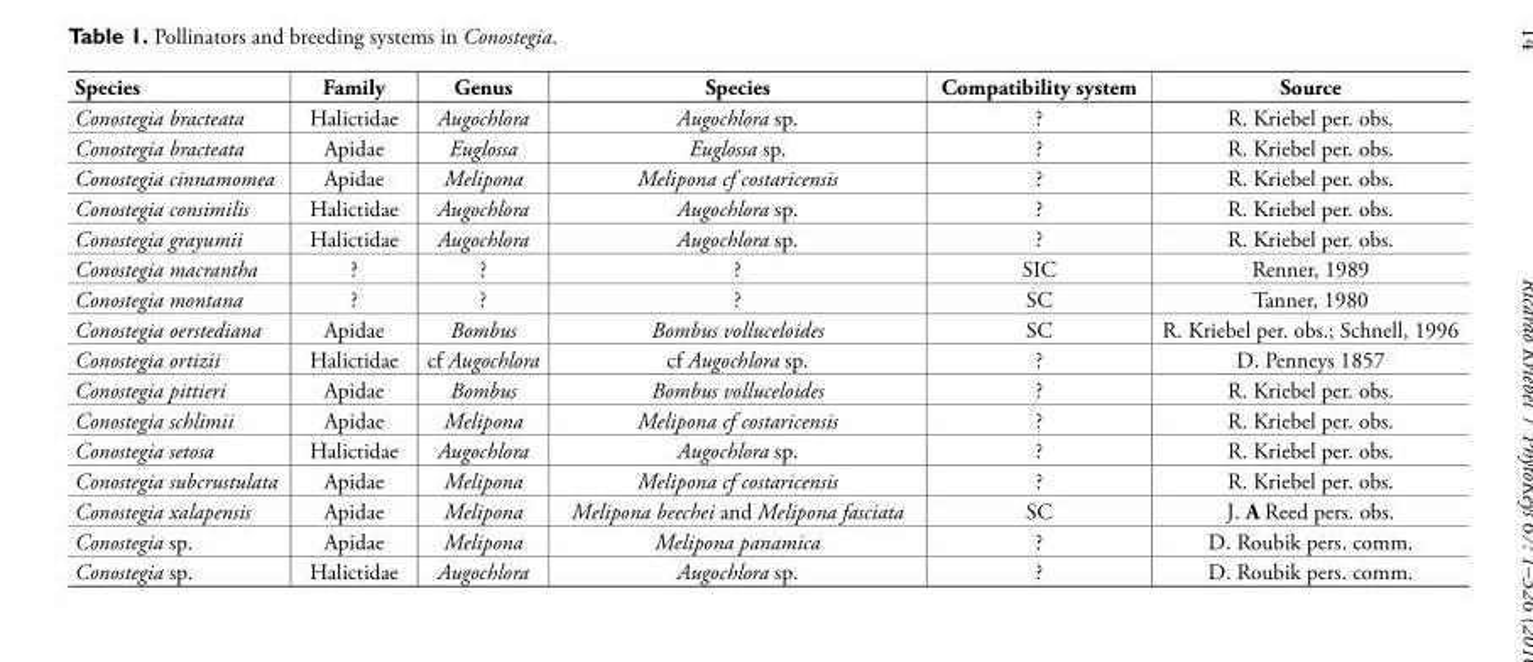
<table><thead><tr><td>Species</td><td>Family</td><td>Genus</td><td>Species</td><td>Compatibility system</td><td>Source</td></tr></thead><tbody><tr><td>Conostegia bracteata</td><td>Halictidae</td><td>Augochlora</td><td>Augochlora sp.</td><td>?</td><td>R. Kriebel per. obs.</td></tr><tr><td>Conostegia bracteata</td><td>Apidae</td><td>Euglossa</td><td>Euglossa sp.</td><td>?</td><td>R. Kriebel per. obs.</td></tr><tr><td>Conostegia cinnamomea</td><td>Apidae</td><td>Melipona</td><td>Melipona cf costaricensis</td><td>?</td><td>R. Kriebel per. obs.</td></tr><tr><td>Conostegia consimilis</td><td>Halictidae</td><td>Augochlora</td><td>Augochlora sp.</td><td>?</td><td>R. Kriebel per. obs.</td></tr><tr><td>Conostegia grayumii</td><td>Halictidae</td><td>Augochlora</td><td>Augochlora sp.</td><td>?</td><td>R. Kriebel per. obs.</td></tr><tr><td>Conostegia macrantha</td><td>?</td><td>?</td><td>?</td><td>SIC</td><td>Renner, 1989</td></tr><tr><td>Conostegia montana</td><td>?</td><td>?</td><td>?</td><td>SC</td><td>Tanner, 1980</td></tr><tr><td>Conostegia oerstediana</td><td>Apidae</td><td>Bombus</td><td>Bombus volluceloides</td><td>SC</td><td>R. Kriebel per. obs.; Schnell, 1996</td></tr><tr><td>Conostegia ortizii</td><td>Halictidae</td><td>cf Augochlora</td><td>cf Augochlora sp.</td><td>?</td><td>D. Penneys 1857</td></tr><tr><td>Conostegia pittieri</td><td>Apidae</td><td>Bombus</td><td>Bombus volluceloides</td><td>?</td><td>R. Kriebel per. obs.</td></tr><tr><td>Conostegia schlimii</td><td>Apidae</td><td>Melipona</td><td>Melipona cf costaricensis</td><td>?</td><td>R. Kriebel per. obs.</td></tr><tr><td>Conostegia setosa</td><td>Halictidae</td><td>Augochlora</td><td>Augochlora sp.</td><td>?</td><td>R. Kriebel per. obs.</td></tr><tr><td>Conostegia subcrustulata</td><td>Apidae</td><td>Melipona</td><td>Melipona cf costaricensis</td><td>?</td><td>R. Kriebel per. obs.</td></tr><tr><td>Conostegia xalapensis</td><td>Apidae</td><td>Melipona</td><td>Melipona beechei and Melipona fasciata</td><td>SC</td><td>J. A Reed pers. obs.</td></tr><tr><td>Conostegia sp.</td><td>Apidae</td><td>Melipona</td><td>Melipona panamica</td><td>?</td><td>D. Roubik pers. comm.</td></tr><tr><td>Conostegia sp.</td><td>Halictidae</td><td>Augochlora</td><td>Augochlora sp.</td><td>?</td><td>D. Roubik pers. comm.</td></tr></tbody></table>